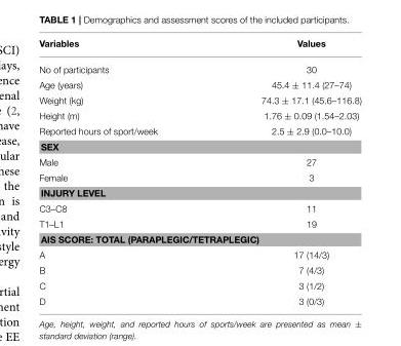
<table><thead><tr><td>Variables</td><td>Values</td></tr></thead><tbody><tr><td>No of participants</td><td>30</td></tr><tr><td>Age (years)</td><td>45.4 ± 11.4 (27–74)</td></tr><tr><td>Weight (kg)</td><td>74.3 ± 17.1 (45.6–116.8)</td></tr><tr><td>Height (m)</td><td>1.76 ± 0.09 (1.54–2.03)</td></tr><tr><td>Reported hours of sport/week</td><td>2.5 ± 2.9 (0.0–10.0)</td></tr><tr><td colspan="2">SEX</td></tr><tr><td>Male</td><td>27</td></tr><tr><td>Female</td><td>3</td></tr><tr><td colspan="2">INJURY LEVEL</td></tr><tr><td>C3–C8</td><td>11</td></tr><tr><td>T1–L1</td><td>19</td></tr><tr><td colspan="2">AIS SCORE: TOTAL (PARAPLEGIC/TETRAPLEGIC)</td></tr><tr><td>A</td><td>17 (14/3)</td></tr><tr><td>B</td><td>7 (4/3)</td></tr><tr><td>C</td><td>3 (1/2)</td></tr><tr><td>D</td><td>3 (0/3)</td></tr></tbody></table>